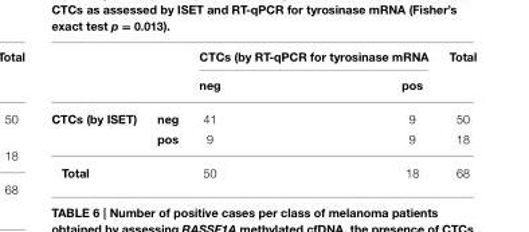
<table><thead><tr><td rowspan="2"></td><td rowspan="2"></td><td colspan="2">CTCs (by RT-qPCR for tyrosinase mRNA</td><td rowspan="2">Total</td></tr><tr><td>neg</td><td>pos</td></tr></thead><tbody><tr><td rowspan="2">CTCs (by ISET)</td><td>neg</td><td>41</td><td>9</td><td>50</td></tr><tr><td>pos</td><td>9</td><td>9</td><td>18</td></tr><tr><td colspan="2">Total</td><td>50</td><td>18</td><td>68</td></tr></tbody></table>